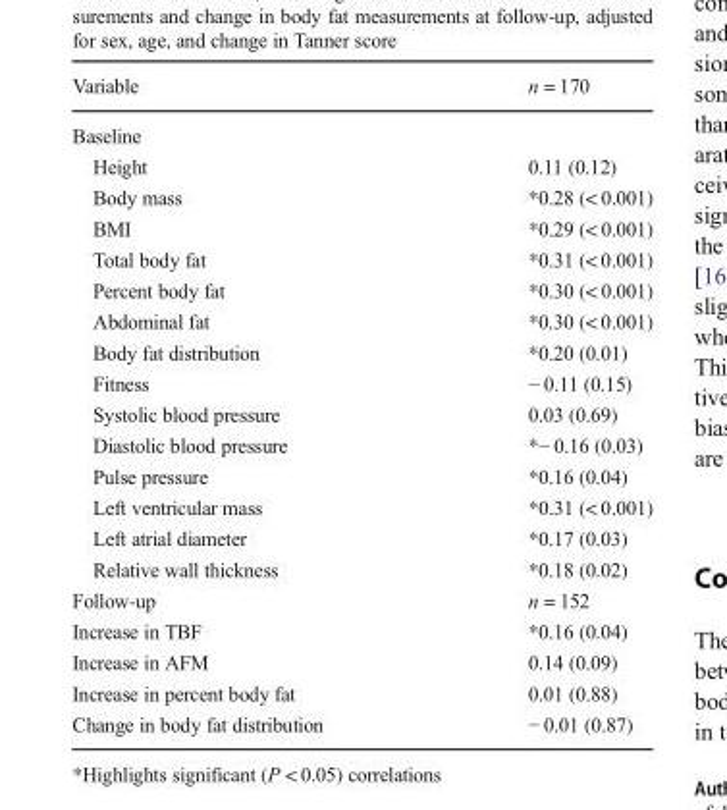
<table><thead><tr><td>Variable</td><td>n = 170</td></tr></thead><tbody><tr><td colspan="2">Baseline</td></tr><tr><td>Height</td><td>0.11 (0.12)</td></tr><tr><td>Body mass</td><td>*0.28 (&lt; 0.001)</td></tr><tr><td>BMI</td><td>*0.29 (&lt; 0.001)</td></tr><tr><td>Total body fat</td><td>*0.31 (&lt; 0.001)</td></tr><tr><td>Percent body fat</td><td>*0.30 (&lt; 0.001)</td></tr><tr><td>Abdominal fat</td><td>*0.30 (&lt; 0.001)</td></tr><tr><td>Body fat distribution</td><td>*0.20 (0.01)</td></tr><tr><td>Fitness</td><td>− 0.11 (0.15)</td></tr><tr><td>Systolic blood pressure</td><td>0.03 (0.69)</td></tr><tr><td>Diastolic blood pressure</td><td>*− 0.16 (0.03)</td></tr><tr><td>Pulse pressure</td><td>*0.16 (0.04)</td></tr><tr><td>Left ventricular mass</td><td>*0.31 (&lt; 0.001)</td></tr><tr><td>Left atrial diameter</td><td>*0.17 (0.03)</td></tr><tr><td>Relative wall thickness</td><td>*0.18 (0.02)</td></tr><tr><td>Follow-up</td><td>n = 152</td></tr><tr><td>Increase in TBF</td><td>*0.16 (0.04)</td></tr><tr><td>Increase in AFM</td><td>0.14 (0.09)</td></tr><tr><td>Increase in percent body fat</td><td>0.01 (0.88)</td></tr><tr><td>Change in body fat distribution</td><td>− 0.01 (0.87)</td></tr></tbody></table>